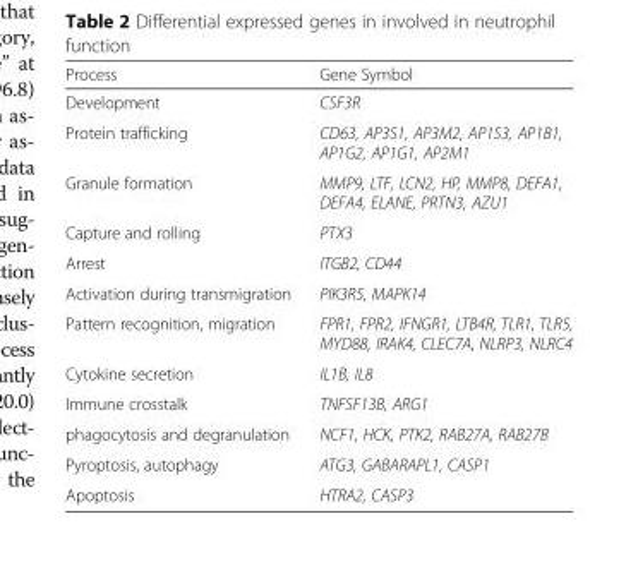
<table><thead><tr><td>Process</td><td>Gene Symbol</td></tr></thead><tbody><tr><td>Development</td><td>CSF3R</td></tr><tr><td>Protein trafficking</td><td>CD63, AP3S1, AP3M2, AP1S3, AP1B1, AP1G2, AP1G1, AP2M1</td></tr><tr><td>Granule formation</td><td>MMP9, LTF, LCN2, HP, MMP8, DEFA1, DEFA4, ELANE, PRTN3, AZU1</td></tr><tr><td>Capture and rolling</td><td>PTX3</td></tr><tr><td>Arrest</td><td>ITGB2, CD44</td></tr><tr><td>Activation during transmigration</td><td>PIK3R5, MAPK14</td></tr><tr><td>Pattern recognition, migration</td><td>FPR1, FPR2, IFNGR1, LTB4R, TLR1, TLR5, MYD88, IRAK4, CLEC7A, NLRP3, NLRC4</td></tr><tr><td>Cytokine secretion</td><td>IL1B, IL8</td></tr><tr><td>Immune crosstalk</td><td>TNFSF13B, ARG1</td></tr><tr><td>phagocytosis and degranulation</td><td>NCF1, HCK, PTK2, RAB27A, RAB27B</td></tr><tr><td>Pyroptosis, autophagy</td><td>ATG3, GABARAPL1, CASP1</td></tr><tr><td>Apoptosis</td><td>HTRA2, CASP3</td></tr></tbody></table>